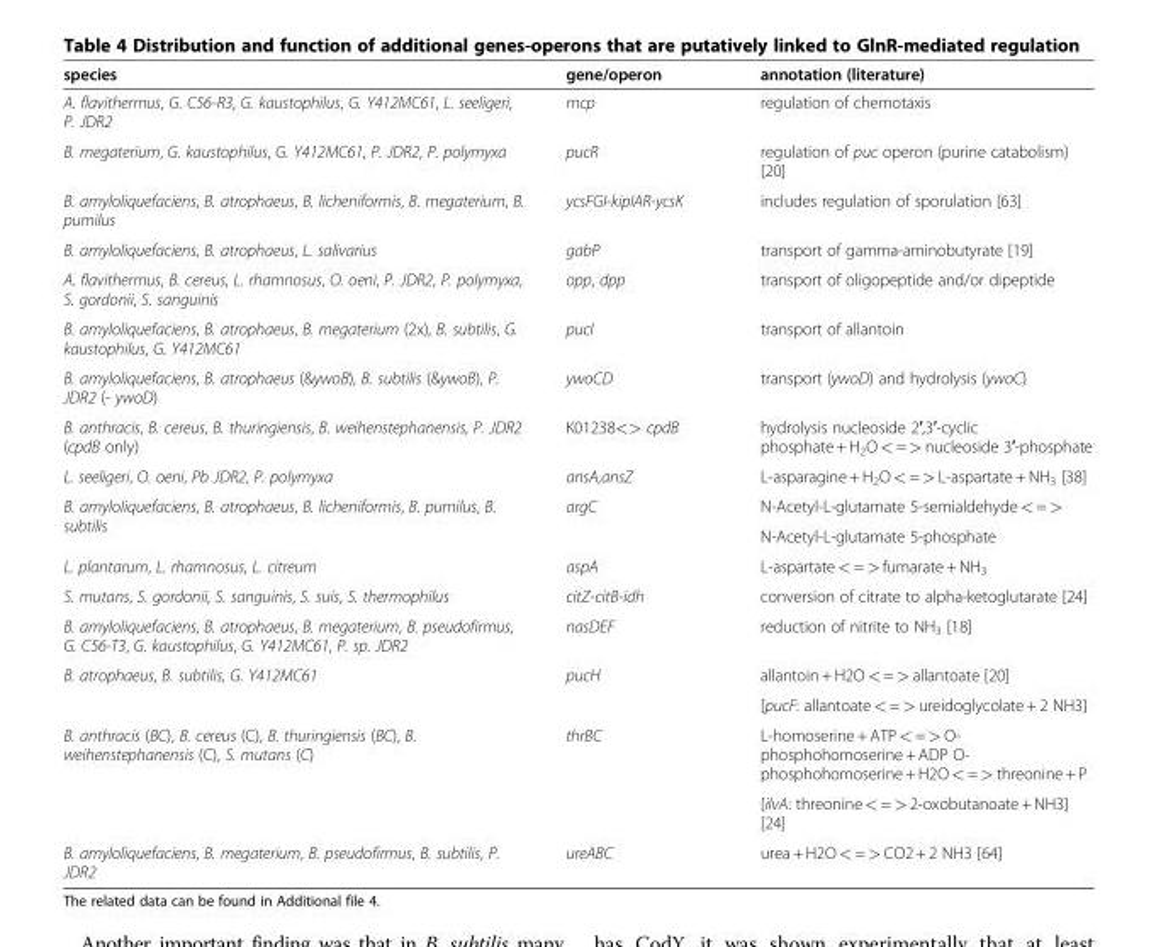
<table><thead><tr><td>species</td><td>gene/operon</td><td>annotation (literature)</td></tr></thead><tbody><tr><td>A. flavithermus, G. C56-R3, G. kaustophilus, G. Y412MC61, L. seeligeri, P. JDR2</td><td>mcp</td><td>regulation of chemotaxis</td></tr><tr><td>B. megaterium, G. kaustophilus, G. Y412MC61, P. JDR2, P. polymyxa</td><td>pucR</td><td>regulation of puc operon (purine catabolism) [20]</td></tr><tr><td>B. amyloliquefaciens, B. atrophaeus, B. licheniformis, B. megaterium, B. pumilus</td><td>ycsFGI-kipIAR-ycsK</td><td>includes regulation of sporulation [63]</td></tr><tr><td>B. amyloliquefaciens, B. atrophaeus, L. salivarius</td><td>gabP</td><td>transport of gamma-aminobutyrate [19]</td></tr><tr><td>A. flavithermus, B. cereus, L. rhamnosus, O. oeni, P. JDR2, P. polymyxa, S. gordonii, S. sanguinis</td><td>opp, dpp</td><td>transport of oligopeptide and/or dipeptide</td></tr><tr><td>B. amyloliquefaciens, B. atrophaeus, B. megaterium (2x), B. subtilis, G. kaustophilus, G. Y412MC61</td><td>pucI</td><td>transport of allantoin</td></tr><tr><td>B. amyloliquefaciens, B. atrophaeus (&amp;ywoB), B. subtilis (&amp;ywoB), P. JDR2 (- ywoD)</td><td>ywoCD</td><td>transport (ywoD) and hydrolysis (ywoC)</td></tr><tr><td>B. anthracis, B. cereus, B. thuringiensis, B. weihenstephanensis, P. JDR2 (cpdB only)</td><td>K01238&lt;&gt; cpdB</td><td>hydrolysis nucleoside 2′,3′-cyclic phosphate + H<sub>2</sub>O &lt; = &gt; nucleoside 3′-phosphate</td></tr><tr><td>L. seeligeri, O. oeni, Pb JDR2, P. polymyxa</td><td>ansA,ansZ</td><td>L-asparagine + H<sub>2</sub>O &lt; = &gt; L-aspartate + NH<sub>3</sub> [38]</td></tr><tr><td rowspan="2">B. amyloliquefaciens, B. atrophaeus, B. licheniformis, B. pumilus, B. subtilis</td><td rowspan="2">argC</td><td>N-Acetyl-L-glutamate 5-semialdehyde &lt; = &gt;</td></tr><tr><td>N-Acetyl-L-glutamate 5-phosphate</td></tr><tr><td>L. plantarum, L. rhamnosus, L. citreum</td><td>aspA</td><td>L-aspartate &lt; = &gt; fumarate + NH<sub>3</sub></td></tr><tr><td>S. mutans, S. gordonii, S. sanguinis, S. suis, S. thermophilus</td><td>citZ-citB-idh</td><td>conversion of citrate to alpha-ketoglutarate [24]</td></tr><tr><td>B. amyloliquefaciens, B. atrophaeus, B. megaterium, B. pseudofirmus, G. C56-T3, G. kaustophilus, G. Y412MC61, P. sp. JDR2</td><td>nasDEF</td><td>reduction of nitrite to NH<sub>3</sub> [18]</td></tr><tr><td rowspan="2">B. atrophaeus, B. subtilis, G. Y412MC61</td><td rowspan="2">pucH</td><td>allantoin + H2O &lt; = &gt; allantoate [20]</td></tr><tr><td>[pucF: allantoate &lt; = &gt; ureidoglycolate + 2 NH3]</td></tr><tr><td rowspan="2">B. anthracis (BC), B. cereus (C), B. thuringiensis (BC), B. weihenstephanensis (C), S. mutans (C)</td><td rowspan="2">thrBC</td><td>L-homoserine + ATP &lt; = &gt; O- phosphohomoserine + ADP O- phosphohomoserine + H2O &lt; = &gt; threonine + P</td></tr><tr><td>[ilvA: threonine &lt; = &gt; 2-oxobutanoate + NH3] [24]</td></tr><tr><td>B. amyloliquefaciens, B. megaterium, B. pseudofirmus, B. subtilis, P. JDR2</td><td>ureABC</td><td>urea + H2O &lt; = &gt; CO2 + 2 NH3 [64]</td></tr></tbody></table>